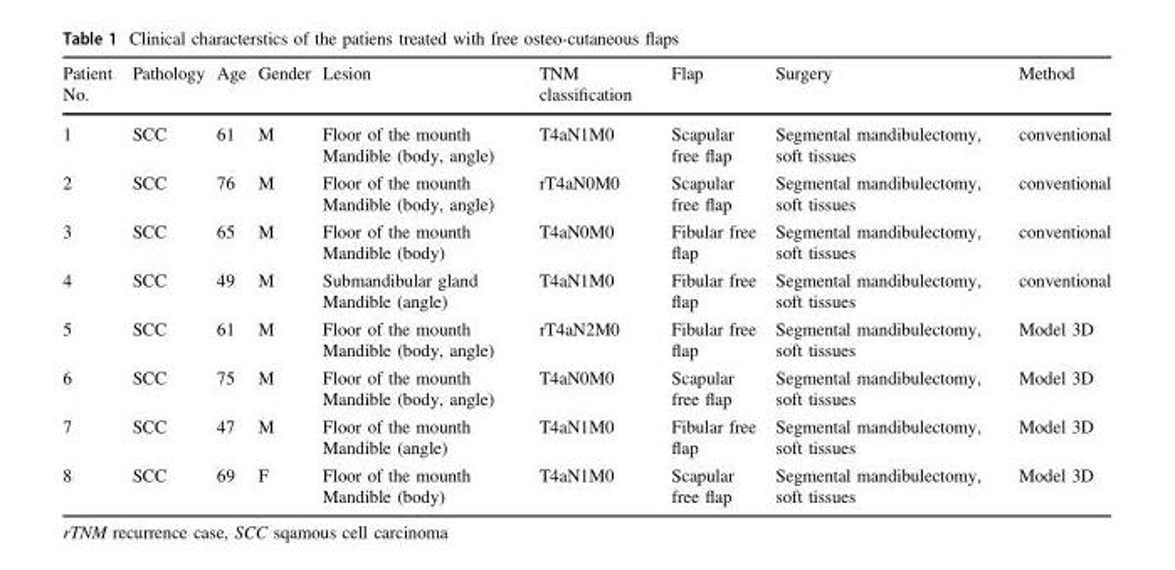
<table><thead><tr><td>Patient No.</td><td>Pathology</td><td>Age</td><td>Gender</td><td>Lesion</td><td>TNM classification</td><td>Flap</td><td>Surgery</td><td>Method</td></tr></thead><tbody><tr><td>1</td><td>SCC</td><td>61</td><td>M</td><td>Floor of the mounth Mandible (body, angle)</td><td>T4aN1M0</td><td>Scapular free flap</td><td>Segmental mandibulectomy, soft tissues</td><td>conventional</td></tr><tr><td>2</td><td>SCC</td><td>76</td><td>M</td><td>Floor of the mounth Mandible (body, angle)</td><td>rT4aN0M0</td><td>Scapular free flap</td><td>Segmental mandibulectomy, soft tissues</td><td>conventional</td></tr><tr><td>3</td><td>SCC</td><td>65</td><td>M</td><td>Floor of the mounth Mandible (body)</td><td>T4aN0M0</td><td>Fibular free flap</td><td>Segmental mandibulectomy, soft tissues</td><td>conventional</td></tr><tr><td>4</td><td>SCC</td><td>49</td><td>M</td><td>Submandibular gland Mandible (angle)</td><td>T4aN1M0</td><td>Fibular free flap</td><td>Segmental mandibulectomy, soft tissues</td><td>conventional</td></tr><tr><td>5</td><td>SCC</td><td>61</td><td>M</td><td>Floor of the mounth Mandible (body, angle)</td><td>rT4aN2M0</td><td>Fibular free flap</td><td>Segmental mandibulectomy, soft tissues</td><td>Model 3D</td></tr><tr><td>6</td><td>SCC</td><td>75</td><td>M</td><td>Floor of the mounth Mandible (body, angle)</td><td>T4aN0M0</td><td>Scapular free flap</td><td>Segmental mandibulectomy, soft tissues</td><td>Model 3D</td></tr><tr><td>7</td><td>SCC</td><td>47</td><td>M</td><td>Floor of the mounth Mandible (angle)</td><td>T4aN1M0</td><td>Fibular free flap</td><td>Segmental mandibulectomy, soft tissues</td><td>Model 3D</td></tr><tr><td>8</td><td>SCC</td><td>69</td><td>F</td><td>Floor of the mounth Mandible (body)</td><td>T4aN1M0</td><td>Scapular free flap</td><td>Segmental mandibulectomy, soft tissues</td><td>Model 3D</td></tr></tbody></table>